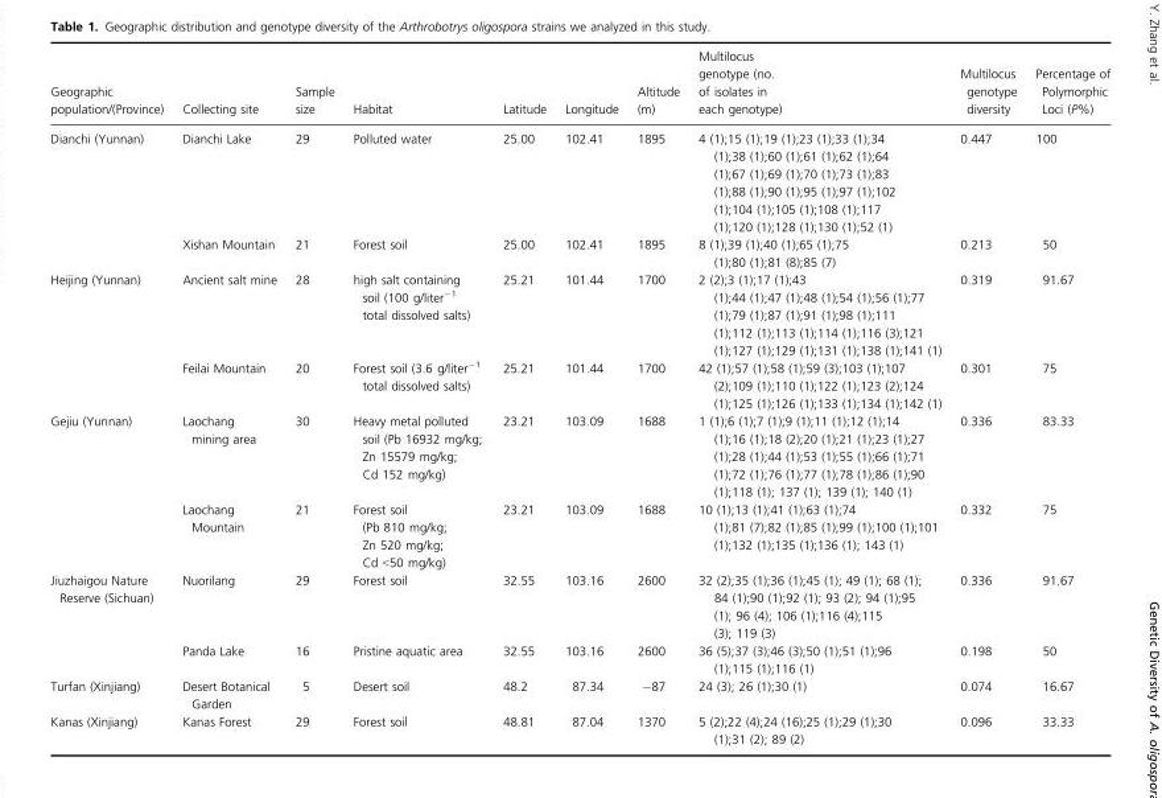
<table><thead><tr><td>Geographic population/(Province)</td><td>Collecting site</td><td>Sample size</td><td>Habitat</td><td>Latitude</td><td>Longitude</td><td>Altitude (m)</td><td>Multilocus genotype (no. of isolates in each genotype)</td><td>Multilocus genotype diversity</td><td>Percentage of Polymorphic Loci (P%)</td></tr></thead><tbody><tr><td rowspan="2">Dianchi (Yunnan)</td><td>Dianchi Lake</td><td>29</td><td>Polluted water</td><td>25.00</td><td>102.41</td><td>1895</td><td>4 (1);15 (1);19 (1);23 (1);33 (1);34 (1);38 (1);60 (1);61 (1);62 (1);64 (1);67 (1);69 (1);70 (1);73 (1);83 (1);88 (1);90 (1);95 (1);97 (1);102 (1);104 (1);105 (1);108 (1);117 (1);120 (1);128 (1);130 (1);52 (1)</td><td>0.447</td><td>100</td></tr><tr><td>Xishan Mountain</td><td>21</td><td>Forest soil</td><td>25.00</td><td>102.41</td><td>1895</td><td>8 (1);39 (1);40 (1);65 (1);75 (1);80 (1);81 (8);85 (7)</td><td>0.213</td><td>50</td></tr><tr><td rowspan="2">Heijing (Yunnan)</td><td>Ancient salt mine</td><td>28</td><td>high salt containing soil (100 g/liter<sup>−1</sup> total dissolved salts)</td><td>25.21</td><td>101.44</td><td>1700</td><td>2 (2);3 (1);17 (1);43 (1);44 (1);47 (1);48 (1);54 (1);56 (1);77 (1);79 (1);87 (1);91 (1);98 (1);111 (1);112 (1);113 (1);114 (1);116 (3);121 (1);127 (1);129 (1);131 (1);138 (1);141 (1)</td><td>0.319</td><td>91.67</td></tr><tr><td>Feilai Mountain</td><td>20</td><td>Forest soil (3.6 g/liter<sup>−1</sup> total dissolved salts)</td><td>25.21</td><td>101.44</td><td>1700</td><td>42 (1);57 (1);58 (1);59 (3);103 (1);107 (2);109 (1);110 (1);122 (1);123 (2);124 (1);125 (1);126 (1);133 (1);134 (1);142 (1)</td><td>0.301</td><td>75</td></tr><tr><td rowspan="2">Gejiu (Yunnan)</td><td>Laochang mining area</td><td>30</td><td>Heavy metal polluted soil (Pb 16932 mg/kg; Zn 15579 mg/kg; Cd 152 mg/kg)</td><td>23.21</td><td>103.09</td><td>1688</td><td>1 (1);6 (1);7 (1);9 (1);11 (1);12 (1);14 (1);16 (1);18 (2);20 (1);21 (1);23 (1);27 (1);28 (1);44 (1);53 (1);55 (1);66 (1);71 (1);72 (1);76 (1);77 (1);78 (1);86 (1);90 (1);118 (1); 137 (1); 139 (1); 140 (1)</td><td>0.336</td><td>83.33</td></tr><tr><td>Laochang Mountain</td><td>21</td><td>Forest soil (Pb 810 mg/kg; Zn 520 mg/kg; Cd &lt;50 mg/kg)</td><td>23.21</td><td>103.09</td><td>1688</td><td>10 (1);13 (1);41 (1);63 (1);74 (1);81 (7);82 (1);85 (1);99 (1);100 (1);101 (1);132 (1);135 (1);136 (1); 143 (1)</td><td>0.332</td><td>75</td></tr><tr><td rowspan="2">Jiuzhaigou Nature Reserve (Sichuan)</td><td>Nuorilang</td><td>29</td><td>Forest soil</td><td>32.55</td><td>103.16</td><td>2600</td><td>32 (2);35 (1);36 (1);45 (1); 49 (1); 68 (1); 84 (1);90 (1);92 (1); 93 (2); 94 (1);95 (1); 96 (4); 106 (1);116 (4);115 (3); 119 (3)</td><td>0.336</td><td>91.67</td></tr><tr><td>Panda Lake</td><td>16</td><td>Pristine aquatic area</td><td>32.55</td><td>103.16</td><td>2600</td><td>36 (5);37 (3);46 (3);50 (1);51 (1);96 (1);115 (1);116 (1)</td><td>0.198</td><td>50</td></tr><tr><td>Turfan (Xinjiang)</td><td>Desert Botanical Garden</td><td>5</td><td>Desert soil</td><td>48.2</td><td>87.34</td><td>−87</td><td>24 (3); 26 (1);30 (1)</td><td>0.074</td><td>16.67</td></tr><tr><td>Kanas (Xinjiang)</td><td>Kanas Forest</td><td>29</td><td>Forest soil</td><td>48.81</td><td>87.04</td><td>1370</td><td>5 (2);22 (4);24 (16);25 (1);29 (1);30 (1);31 (2); 89 (2)</td><td>0.096</td><td>33.33</td></tr></tbody></table>